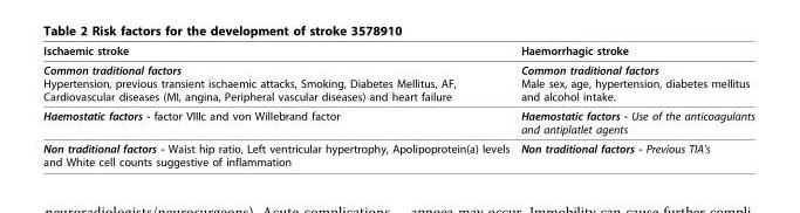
<table><thead><tr><td>Ischaemic stroke</td><td>Haemorrhagic stroke</td></tr></thead><tbody><tr><td>Common traditional factors Hypertension, previous transient ischaemic attacks, Smoking, Diabetes Mellitus, AF, Cardiovascular diseases (MI, angina, Peripheral vascular diseases) and heart failure</td><td>Common traditional factors Male sex, age, hypertension, diabetes mellitus and alcohol intake.</td></tr><tr><td>Haemostatic factors - factor VIIIc and von Willebrand factor</td><td>Haemostatic factors - Use of the anticoagulants and antiplatlet agents</td></tr><tr><td>Non traditional factors - Waist hip ratio, Left ventricular hypertrophy, Apolipoprotein(a) levels and White cell counts suggestive of inflammation</td><td>Non traditional factors - Previous TIA’s</td></tr></tbody></table>